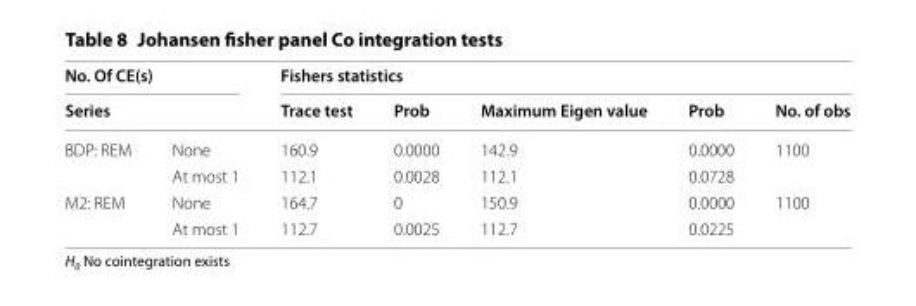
<table><thead><tr><td colspan="2">No. Of CE(s)</td><td colspan="5">Fishers statistics</td></tr><tr><td>Series</td><td></td><td>Trace test</td><td>Prob</td><td>Maximum Eigen value</td><td>Prob</td><td>No. of obs</td></tr></thead><tbody><tr><td rowspan="2">BDP: REM</td><td>None</td><td>160.9</td><td>0.0000</td><td>142.9</td><td>0.0000</td><td>1100</td></tr><tr><td>At most 1</td><td>112.1</td><td>0.0028</td><td>112.1</td><td>0.0728</td><td></td></tr><tr><td rowspan="2">M2: REM</td><td>None</td><td>164.7</td><td>0</td><td>150.9</td><td>0.0000</td><td>1100</td></tr><tr><td>At most 1</td><td>112.7</td><td>0.0025</td><td>112.7</td><td>0.0225</td><td></td></tr></tbody></table>